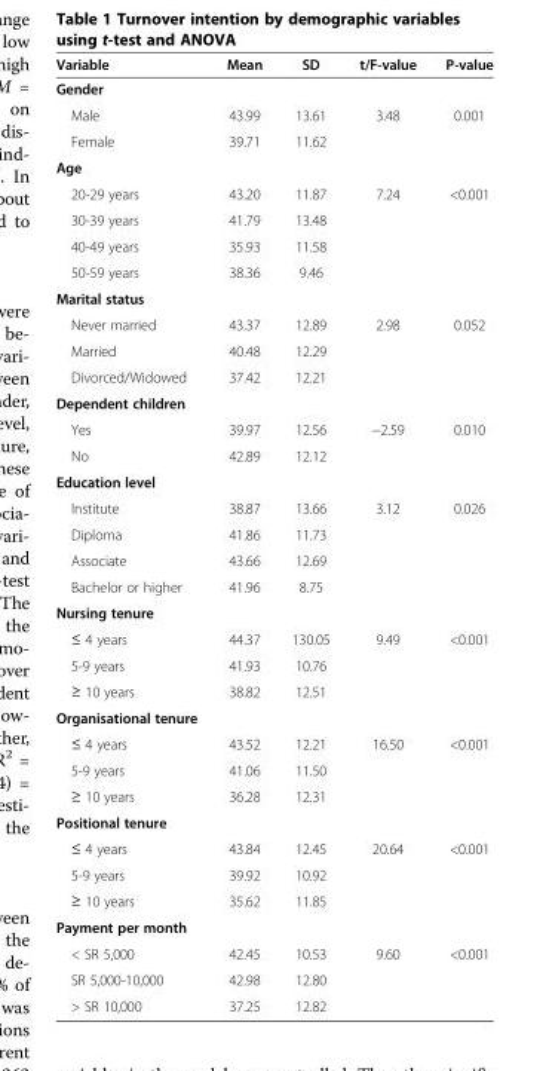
<table><thead><tr><td>Variable</td><td>Mean</td><td>SD</td><td>t/F-value</td><td>P-value</td></tr></thead><tbody><tr><td colspan="5">Gender</td></tr><tr><td>Male</td><td>43.99</td><td>13.61</td><td>3.48</td><td>0.001</td></tr><tr><td>Female</td><td>39.71</td><td>11.62</td><td></td><td></td></tr><tr><td colspan="5">Age</td></tr><tr><td>20-29 years</td><td>43.20</td><td>11.87</td><td>7.24</td><td>&lt;0.001</td></tr><tr><td>30-39 years</td><td>41.79</td><td>13.48</td><td></td><td></td></tr><tr><td>40-49 years</td><td>35.93</td><td>11.58</td><td></td><td></td></tr><tr><td>50-59 years</td><td>38.36</td><td>9.46</td><td></td><td></td></tr><tr><td colspan="5">Marital status</td></tr><tr><td>Never married</td><td>43.37</td><td>12.89</td><td>2.98</td><td>0.052</td></tr><tr><td>Married</td><td>40.48</td><td>12.29</td><td></td><td></td></tr><tr><td>Divorced/Widowed</td><td>37.42</td><td>12.21</td><td></td><td></td></tr><tr><td colspan="5">Dependent children</td></tr><tr><td>Yes</td><td>39.97</td><td>12.56</td><td>−2.59</td><td>0.010</td></tr><tr><td>No</td><td>42.89</td><td>12.12</td><td></td><td></td></tr><tr><td colspan="5">Education level</td></tr><tr><td>Institute</td><td>38.87</td><td>13.66</td><td>3.12</td><td>0.026</td></tr><tr><td>Diploma</td><td>41.86</td><td>11.73</td><td></td><td></td></tr><tr><td>Associate</td><td>43.66</td><td>12.69</td><td></td><td></td></tr><tr><td>Bachelor or higher</td><td>41.96</td><td>8.75</td><td></td><td></td></tr><tr><td colspan="5">Nursing tenure</td></tr><tr><td>≤ 4 years</td><td>44.37</td><td>130.05</td><td>9.49</td><td>&lt;0.001</td></tr><tr><td>5-9 years</td><td>41.93</td><td>10.76</td><td></td><td></td></tr><tr><td>≥ 10 years</td><td>38.82</td><td>12.51</td><td></td><td></td></tr><tr><td colspan="5">Organisational tenure</td></tr><tr><td>≤ 4 years</td><td>43.52</td><td>12.21</td><td>16.50</td><td>&lt;0.001</td></tr><tr><td>5-9 years</td><td>41.06</td><td>11.50</td><td></td><td></td></tr><tr><td>≥ 10 years</td><td>36.28</td><td>12.31</td><td></td><td></td></tr><tr><td colspan="5">Positional tenure</td></tr><tr><td>≤ 4 years</td><td>43.84</td><td>12.45</td><td>20.64</td><td>&lt;0.001</td></tr><tr><td>5-9 years</td><td>39.92</td><td>10.92</td><td></td><td></td></tr><tr><td>≥ 10 years</td><td>35.62</td><td>11.85</td><td></td><td></td></tr><tr><td colspan="5">Payment per month</td></tr><tr><td>&lt; SR 5,000</td><td>42.45</td><td>10.53</td><td>9.60</td><td>&lt;0.001</td></tr><tr><td>SR 5,000-10,000</td><td>42.98</td><td>12.80</td><td></td><td></td></tr><tr><td>&gt; SR 10,000</td><td>37.25</td><td>12.82</td><td></td><td></td></tr></tbody></table>